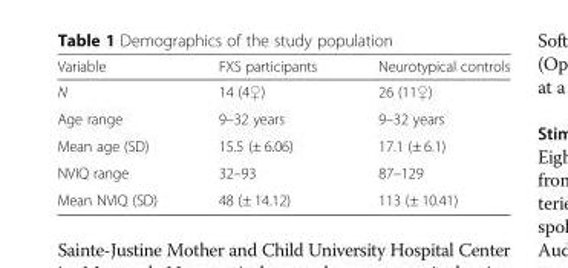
<table><thead><tr><td>Variable</td><td>FXS participants</td><td>Neurotypical controls</td></tr></thead><tbody><tr><td>N</td><td>14 (4♀)</td><td>26 (11♀)</td></tr><tr><td>Age range</td><td>9–32 years</td><td>9–32 years</td></tr><tr><td>Mean age (SD)</td><td>15.5 (± 6.06)</td><td>17.1 (± 6.1)</td></tr><tr><td>NVIQ range</td><td>32–93</td><td>87–129</td></tr><tr><td>Mean NVIQ (SD)</td><td>48 (± 14.12)</td><td>113 (± 10.41)</td></tr></tbody></table>